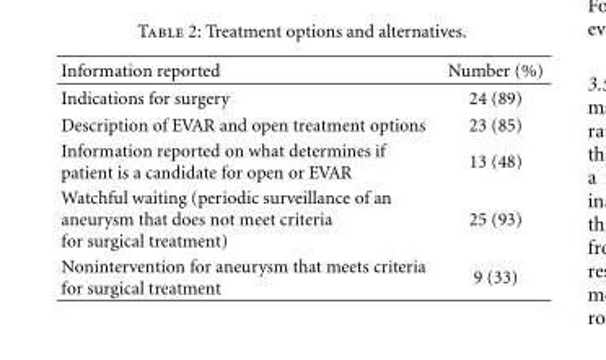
<table><thead><tr><td>Information reported</td><td>Number (%)</td></tr></thead><tbody><tr><td>Indications for surgery</td><td>24 (89)</td></tr><tr><td>Description of EVAR and open treatment options</td><td>23 (85)</td></tr><tr><td>Information reported on what determines if patient is a candidate for open or EVAR</td><td>13 (48)</td></tr><tr><td>Watchful waiting (periodic surveillance of an aneurysm that does not meet criteria for surgical treatment)</td><td>25 (93)</td></tr><tr><td>Nonintervention for aneurysm that meets criteria for surgical treatment</td><td>9 (33)</td></tr></tbody></table>